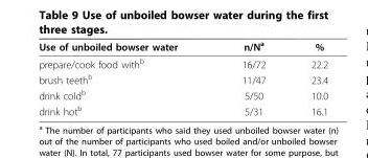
<table><thead><tr><td>Use of unboiled bowser water</td><td>n/N<sup>a</sup></td><td>%</td></tr></thead><tbody><tr><td>prepare/cook food with<sup>b</sup></td><td>16/72</td><td>22.2</td></tr><tr><td>brush teeth<sup>b</sup></td><td>11/47</td><td>23.4</td></tr><tr><td>drink cold<sup>b</sup></td><td>5/50</td><td>10.0</td></tr><tr><td>drink hot<sup>b</sup></td><td>5/31</td><td>16.1</td></tr></tbody></table>